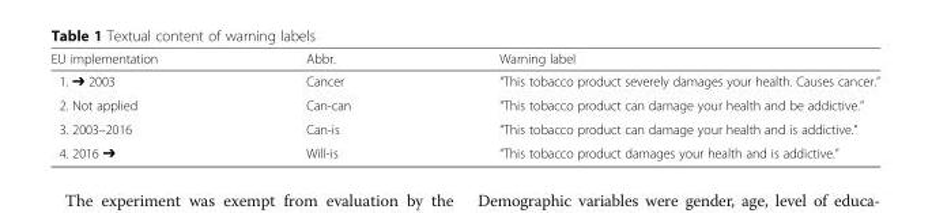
<table><thead><tr><td>EU implementation</td><td>Abbr.</td><td>Warning label</td></tr></thead><tbody><tr><td>1. ➔ 2003</td><td>Cancer</td><td>“This tobacco product severely damages your health. Causes cancer.”</td></tr><tr><td>2. Not applied</td><td>Can-can</td><td>“This tobacco product can damage your health and be addictive.”</td></tr><tr><td>3. 2003–2016</td><td>Can-is</td><td>“This tobacco product can damage your health and is addictive.”</td></tr><tr><td>4. 2016 ➔</td><td>Will-is</td><td>“This tobacco product damages your health and is addictive.”</td></tr></tbody></table>